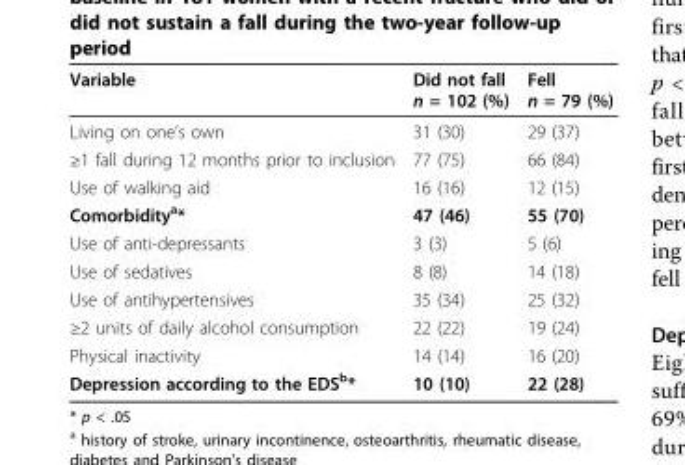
<table><thead><tr><td>Variable</td><td>Did not fall n = 102 (%)</td><td>Fell n = 79 (%)</td></tr></thead><tbody><tr><td>Living on one’s own</td><td>31 (30)</td><td>29 (37)</td></tr><tr><td>≥1 fall during 12 months prior to inclusion</td><td>77 (75)</td><td>66 (84)</td></tr><tr><td>Use of walking aid</td><td>16 (16)</td><td>12 (15)</td></tr><tr><td>Comorbidity<sup>a</sup>*</td><td>47 (46)</td><td>55 (70)</td></tr><tr><td>Use of anti-depressants</td><td>3 (3)</td><td>5 (6)</td></tr><tr><td>Use of sedatives</td><td>8 (8)</td><td>14 (18)</td></tr><tr><td>Use of antihypertensives</td><td>35 (34)</td><td>25 (32)</td></tr><tr><td>≥2 units of daily alcohol consumption</td><td>22 (22)</td><td>19 (24)</td></tr><tr><td>Physical inactivity</td><td>14 (14)</td><td>16 (20)</td></tr><tr><td>Depression according to the EDS<sup>b</sup>*</td><td>10 (10)</td><td>22 (28)</td></tr></tbody></table>